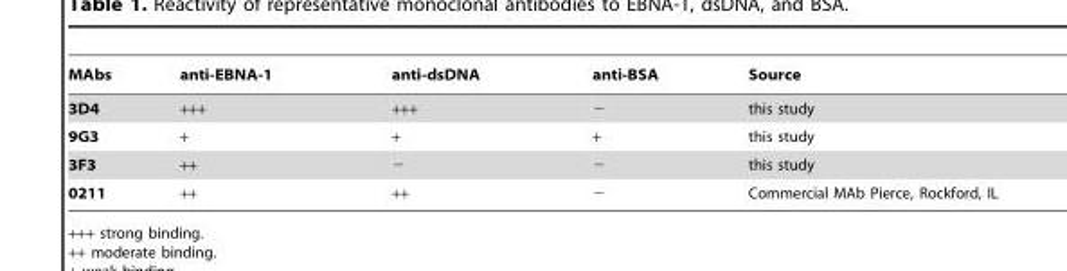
<table><thead><tr><td>MAbs</td><td>anti-EBNA-1</td><td>anti-dsDNA</td><td>anti-BSA</td><td>Source</td></tr></thead><tbody><tr><td>3D4</td><td>+++</td><td>+++</td><td>−</td><td>this study</td></tr><tr><td>9G3</td><td>+</td><td>+</td><td>+</td><td>this study</td></tr><tr><td>3F3</td><td>++</td><td>−</td><td>−</td><td>this study</td></tr><tr><td>0211</td><td>++</td><td>++</td><td>−</td><td>Commercial MAb Pierce, Rockford, IL</td></tr></tbody></table>